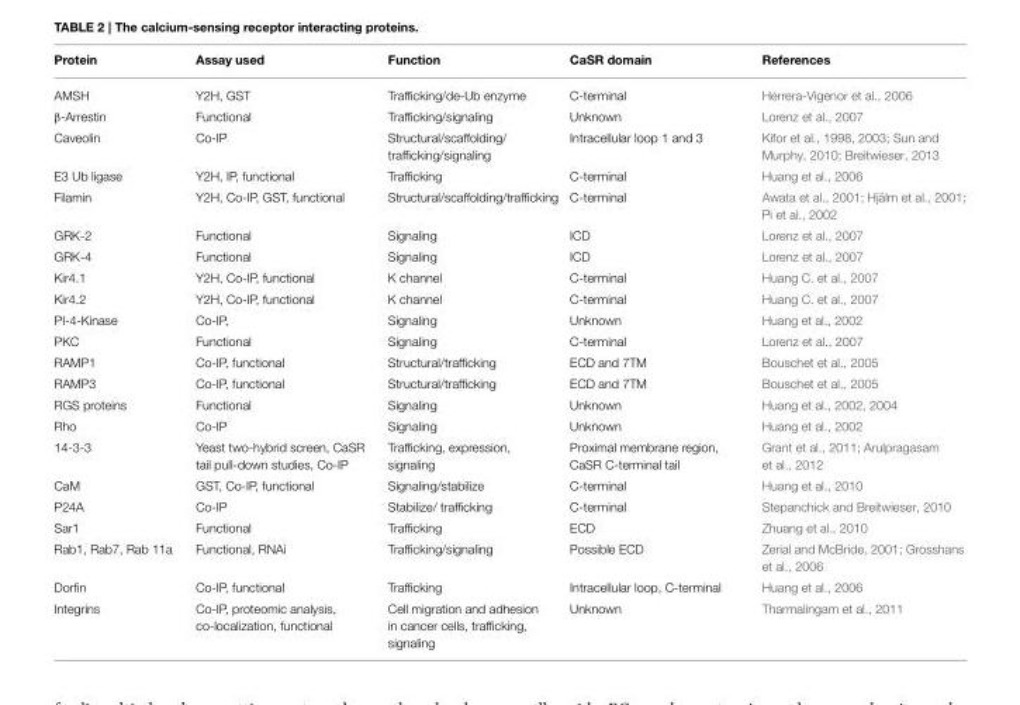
<table><thead><tr><td>Protein</td><td>Assay used</td><td>Function</td><td>CaSR domain</td><td>References</td></tr></thead><tbody><tr><td>AMSH</td><td>Y2H, GST</td><td>Trafficking/de-Ub enzyme</td><td>C-terminal</td><td>Herrera-Vigenor et al., 2006</td></tr><tr><td>β-Arrestin</td><td>Functional</td><td>Trafficking/signaling</td><td>Unknown</td><td>Lorenz et al., 2007</td></tr><tr><td>Caveolin</td><td>Co-IP</td><td>Structural/scaffolding/ trafficking/signaling</td><td>Intracellular loop 1 and 3</td><td>Kifor et al., 1998, 2003; Sun and Murphy, 2010; Breitwieser, 2013</td></tr><tr><td>E3 Ub ligase</td><td>Y2H, IP, functional</td><td>Trafficking</td><td>C-terminal</td><td>Huang et al., 2006</td></tr><tr><td>Filamin</td><td>Y2H, Co-IP, GST, functional</td><td>Structural/scaffolding/trafficking</td><td>C-terminal</td><td>Awata et al., 2001; Hjälm et al., 2001; Pi et al., 2002</td></tr><tr><td>GRK-2</td><td>Functional</td><td>Signaling</td><td>ICD</td><td>Lorenz et al., 2007</td></tr><tr><td>GRK-4</td><td>Functional</td><td>Signaling</td><td>ICD</td><td>Lorenz et al., 2007</td></tr><tr><td>Kir4.1</td><td>Y2H, Co-IP, functional</td><td>K channel</td><td>C-terminal</td><td>Huang C. et al., 2007</td></tr><tr><td>Kir4.2</td><td>Y2H, Co-IP, functional</td><td>K channel</td><td>C-terminal</td><td>Huang C. et al., 2007</td></tr><tr><td>PI-4-Kinase</td><td>Co-IP,</td><td>Signaling</td><td>Unknown</td><td>Huang et al., 2002</td></tr><tr><td>PKC</td><td>Functional</td><td>Signaling</td><td>C-terminal</td><td>Lorenz et al., 2007</td></tr><tr><td>RAMP1</td><td>Co-IP, functional</td><td>Structural/trafficking</td><td>ECD and 7TM</td><td>Bouschet et al., 2005</td></tr><tr><td>RAMP3</td><td>Co-IP, functional</td><td>Structural/trafficking</td><td>ECD and 7TM</td><td>Bouschet et al., 2005</td></tr><tr><td>RGS proteins</td><td>Functional</td><td>Signaling</td><td>Unknown</td><td>Huang et al., 2002, 2004</td></tr><tr><td>Rho</td><td>Co-IP</td><td>Signaling</td><td>Unknown</td><td>Huang et al., 2002</td></tr><tr><td>14-3-3</td><td>Yeast two-hybrid screen, CaSR tail pull-down studies, Co-IP</td><td>Trafficking, expression, signaling</td><td>Proximal membrane region, CaSR C-terminal tail</td><td>Grant et al., 2011; Arulpragasam et al., 2012</td></tr><tr><td>CaM</td><td>GST, Co-IP, functional</td><td>Signaling/stabilize</td><td>C-terminal</td><td>Huang et al., 2010</td></tr><tr><td>P24A</td><td>Co-IP</td><td>Stabilize/ trafficking</td><td>C-terminal</td><td>Stepanchick and Breitwieser, 2010</td></tr><tr><td>Sar1</td><td>Functional</td><td>Trafficking</td><td>ECD</td><td>Zhuang et al., 2010</td></tr><tr><td>Rab1, Rab7, Rab 11a</td><td>Functional, RNAi</td><td>Trafficking/signaling</td><td>Possible ECD</td><td>Zerial and McBride, 2001; Grosshans et al., 2006</td></tr><tr><td>Dorfin</td><td>Co-IP, functional</td><td>Trafficking</td><td>Intracellular loop, C-terminal</td><td>Huang et al., 2006</td></tr><tr><td>Integrins</td><td>Co-IP, proteomic analysis, co-localization, functional</td><td>Cell migration and adhesion in cancer cells, trafficking, signaling</td><td>Unknown</td><td>Tharmalingam et al., 2011</td></tr></tbody></table>